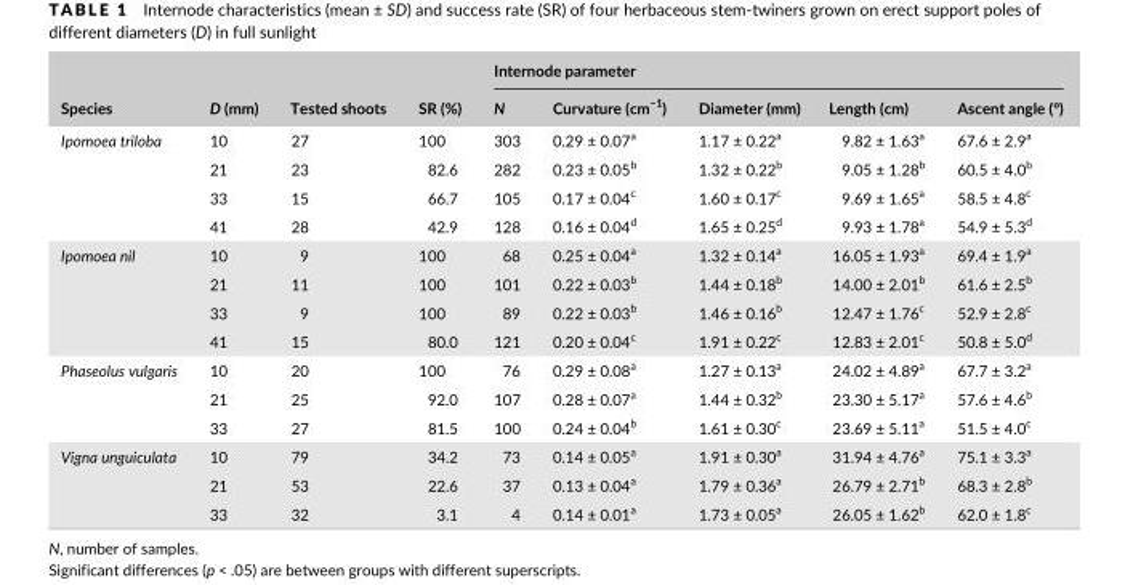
<table><thead><tr><td rowspan="2">Species</td><td rowspan="2">D (mm)</td><td rowspan="2">Tested shoots</td><td rowspan="2">SR (%)</td><td colspan="5">Internode parameter</td></tr><tr><td>N</td><td>Curvature (cm<sup>−1</sup>)</td><td>Diameter (mm)</td><td>Length (cm)</td><td>Ascent angle (°)</td></tr></thead><tbody><tr><td rowspan="4">Ipomoea triloba</td><td>10</td><td>27</td><td>100</td><td>303</td><td>0.29 ± 0.07<sup>a</sup></td><td>1.17 ± 0.22<sup>a</sup></td><td>9.82 ± 1.63<sup>a</sup></td><td>67.6 ± 2.9<sup>a</sup></td></tr><tr><td>21</td><td>23</td><td>82.6</td><td>282</td><td>0.23 ± 0.05<sup>b</sup></td><td>1.32 ± 0.22<sup>b</sup></td><td>9.05 ± 1.28<sup>b</sup></td><td>60.5 ± 4.0<sup>b</sup></td></tr><tr><td>33</td><td>15</td><td>66.7</td><td>105</td><td>0.17 ± 0.04<sup>c</sup></td><td>1.60 ± 0.17<sup>c</sup></td><td>9.69 ± 1.65<sup>a</sup></td><td>58.5 ± 4.8<sup>c</sup></td></tr><tr><td>41</td><td>28</td><td>42.9</td><td>128</td><td>0.16 ± 0.04<sup>d</sup></td><td>1.65 ± 0.25<sup>d</sup></td><td>9.93 ± 1.78<sup>a</sup></td><td>54.9 ± 5.3<sup>d</sup></td></tr><tr><td rowspan="4">Ipomoea nil</td><td>10</td><td>9</td><td>100</td><td>68</td><td>0.25 ± 0.04<sup>a</sup></td><td>1.32 ± 0.14<sup>a</sup></td><td>16.05 ± 1.93<sup>a</sup></td><td>69.4 ± 1.9<sup>a</sup></td></tr><tr><td>21</td><td>11</td><td>100</td><td>101</td><td>0.22 ± 0.03<sup>b</sup></td><td>1.44 ± 0.18<sup>b</sup></td><td>14.00 ± 2.01<sup>b</sup></td><td>61.6 ± 2.5<sup>b</sup></td></tr><tr><td>33</td><td>9</td><td>100</td><td>89</td><td>0.22 ± 0.03<sup>b</sup></td><td>1.46 ± 0.16<sup>b</sup></td><td>12.47 ± 1.76<sup>c</sup></td><td>52.9 ± 2.8<sup>c</sup></td></tr><tr><td>41</td><td>15</td><td>80.0</td><td>121</td><td>0.20 ± 0.04<sup>c</sup></td><td>1.91 ± 0.22<sup>c</sup></td><td>12.83 ± 2.01<sup>c</sup></td><td>50.8 ± 5.0<sup>d</sup></td></tr><tr><td rowspan="3">Phaseolus vulgaris</td><td>10</td><td>20</td><td>100</td><td>76</td><td>0.29 ± 0.08<sup>a</sup></td><td>1.27 ± 0.13<sup>a</sup></td><td>24.02 ± 4.89<sup>a</sup></td><td>67.7 ± 3.2<sup>a</sup></td></tr><tr><td>21</td><td>25</td><td>92.0</td><td>107</td><td>0.28 ± 0.07<sup>a</sup></td><td>1.44 ± 0.32<sup>b</sup></td><td>23.30 ± 5.17<sup>a</sup></td><td>57.6 ± 4.6<sup>b</sup></td></tr><tr><td>33</td><td>27</td><td>81.5</td><td>100</td><td>0.24 ± 0.04<sup>b</sup></td><td>1.61 ± 0.30<sup>c</sup></td><td>23.69 ± 5.11<sup>a</sup></td><td>51.5 ± 4.0<sup>c</sup></td></tr><tr><td rowspan="3">Vigna unguiculata</td><td>10</td><td>79</td><td>34.2</td><td>73</td><td>0.14 ± 0.05<sup>a</sup></td><td>1.91 ± 0.30<sup>a</sup></td><td>31.94 ± 4.76<sup>a</sup></td><td>75.1 ± 3.3<sup>a</sup></td></tr><tr><td>21</td><td>53</td><td>22.6</td><td>37</td><td>0.13 ± 0.04<sup>a</sup></td><td>1.79 ± 0.36<sup>a</sup></td><td>26.79 ± 2.71<sup>b</sup></td><td>68.3 ± 2.8<sup>b</sup></td></tr><tr><td>33</td><td>32</td><td>3.1</td><td>4</td><td>0.14 ± 0.01<sup>a</sup></td><td>1.73 ± 0.05<sup>a</sup></td><td>26.05 ± 1.62<sup>b</sup></td><td>62.0 ± 1.8<sup>c</sup></td></tr></tbody></table>